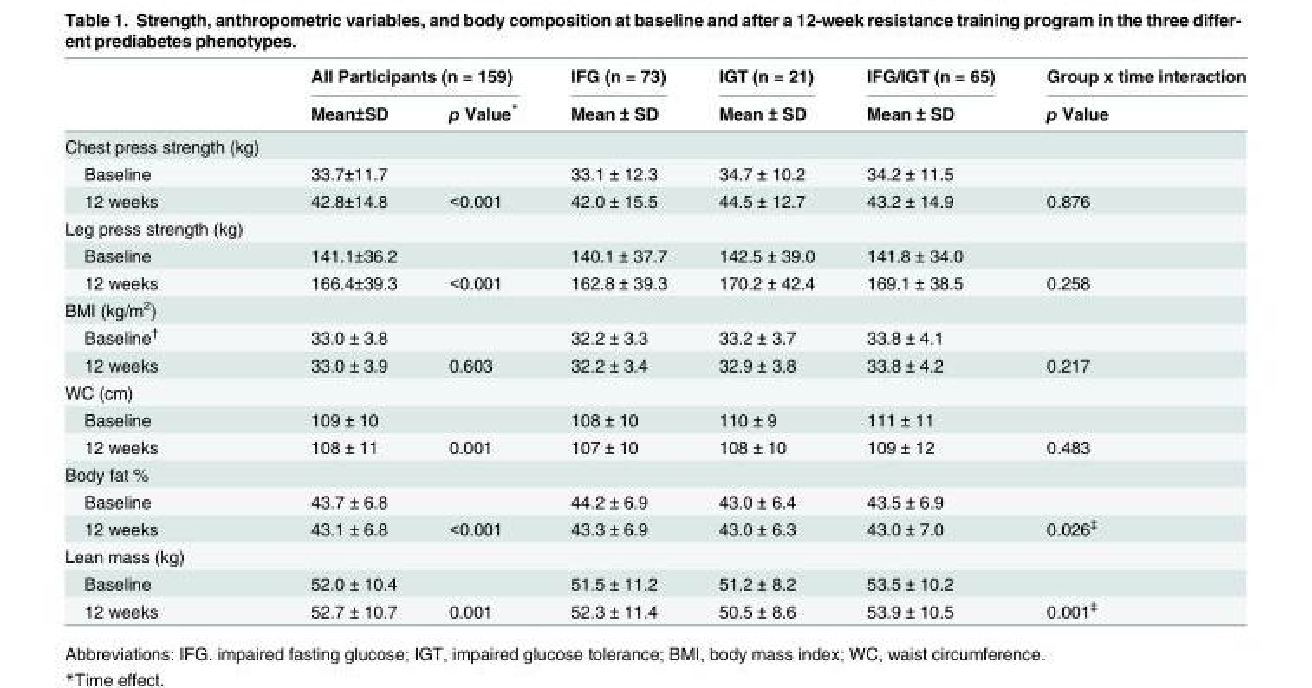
<table><thead><tr><td rowspan="2"></td><td colspan="2">All Participants (n = 159)</td><td rowspan="2">IFG (n = 73) Mean ± SD</td><td rowspan="2">IGT (n = 21) Mean ± SD</td><td rowspan="2">IFG/IGT (n = 65) Mean ± SD</td><td rowspan="2">Group x time interaction p Value</td></tr><tr><td>Mean±SD</td><td>p Value*</td></tr></thead><tbody><tr><td colspan="7">Chest press strength (kg)</td></tr><tr><td>Baseline</td><td>33.7±11.7</td><td></td><td>33.1 ± 12.3</td><td>34.7 ± 10.2</td><td>34.2 ± 11.5</td><td></td></tr><tr><td>12 weeks</td><td>42.8±14.8</td><td>&lt;0.001</td><td>42.0 ± 15.5</td><td>44.5 ± 12.7</td><td>43.2 ± 14.9</td><td>0.876</td></tr><tr><td colspan="7">Leg press strength (kg)</td></tr><tr><td>Baseline</td><td>141.1±36.2</td><td></td><td>140.1 ± 37.7</td><td>142.5 ± 39.0</td><td>141.8 ± 34.0</td><td></td></tr><tr><td>12 weeks</td><td>166.4±39.3</td><td>&lt;0.001</td><td>162.8 ± 39.3</td><td>170.2 ± 42.4</td><td>169.1 ± 38.5</td><td>0.258</td></tr><tr><td colspan="7">BMI (kg/m<sup>2</sup>)</td></tr><tr><td>Baseline<sup>†</sup></td><td>33.0 ± 3.8</td><td></td><td>32.2 ± 3.3</td><td>33.2 ± 3.7</td><td>33.8 ± 4.1</td><td></td></tr><tr><td>12 weeks</td><td>33.0 ± 3.9</td><td>0.603</td><td>32.2 ± 3.4</td><td>32.9 ± 3.8</td><td>33.8 ± 4.2</td><td>0.217</td></tr><tr><td colspan="7">WC (cm)</td></tr><tr><td>Baseline</td><td>109 ± 10</td><td></td><td>108 ± 10</td><td>110 ± 9</td><td>111 ± 11</td><td></td></tr><tr><td>12 weeks</td><td>108 ± 11</td><td>0.001</td><td>107 ± 10</td><td>108 ± 10</td><td>109 ± 12</td><td>0.483</td></tr><tr><td colspan="7">Body fat %</td></tr><tr><td>Baseline</td><td>43.7 ± 6.8</td><td></td><td>44.2 ± 6.9</td><td>43.0 ± 6.4</td><td>43.5 ± 6.9</td><td></td></tr><tr><td>12 weeks</td><td>43.1 ± 6.8</td><td>&lt;0.001</td><td>43.3 ± 6.9</td><td>43.0 ± 6.3</td><td>43.0 ± 7.0</td><td>0.026<sup>‡</sup></td></tr><tr><td colspan="7">Lean mass (kg)</td></tr><tr><td>Baseline</td><td>52.0 ± 10.4</td><td></td><td>51.5 ± 11.2</td><td>51.2 ± 8.2</td><td>53.5 ± 10.2</td><td></td></tr><tr><td>12 weeks</td><td>52.7 ± 10.7</td><td>0.001</td><td>52.3 ± 11.4</td><td>50.5 ± 8.6</td><td>53.9 ± 10.5</td><td>0.001<sup>‡</sup></td></tr></tbody></table>